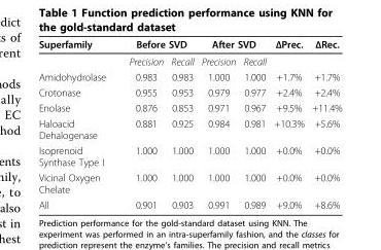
<table><thead><tr><td rowspan="2">Superfamily</td><td colspan="2">Before SVD</td><td colspan="2">After SVD</td><td rowspan="2">ΔPrec.</td><td rowspan="2">ΔRec.</td></tr><tr><td>Precision</td><td>Recall</td><td>Precision</td><td>Recall</td></tr></thead><tbody><tr><td>Amidohydrolase</td><td>0.983</td><td>0.983</td><td>1.000</td><td>1.000</td><td>+1.7%</td><td>+1.7%</td></tr><tr><td>Crotonase</td><td>0.955</td><td>0.953</td><td>0.979</td><td>0.977</td><td>+2.4%</td><td>+2.4%</td></tr><tr><td>Enolase</td><td>0.876</td><td>0.853</td><td>0.971</td><td>0.967</td><td>+9.5%</td><td>+11.4%</td></tr><tr><td>Haloacid Dehalogenase</td><td>0.881</td><td>0.925</td><td>0.984</td><td>0.981</td><td>+10.3%</td><td>+5.6%</td></tr><tr><td>Isoprenoid Synthase Type I</td><td>1.000</td><td>1.000</td><td>1.000</td><td>1.000</td><td>+0.0%</td><td>+0.0%</td></tr><tr><td>Vicinal Oxygen Chelate</td><td>1.000</td><td>1.000</td><td>1.000</td><td>1.000</td><td>+0.0%</td><td>+0.0%</td></tr><tr><td>All</td><td>0.901</td><td>0.903</td><td>0.991</td><td>0.989</td><td>+9.0%</td><td>+8.6%</td></tr></tbody></table>